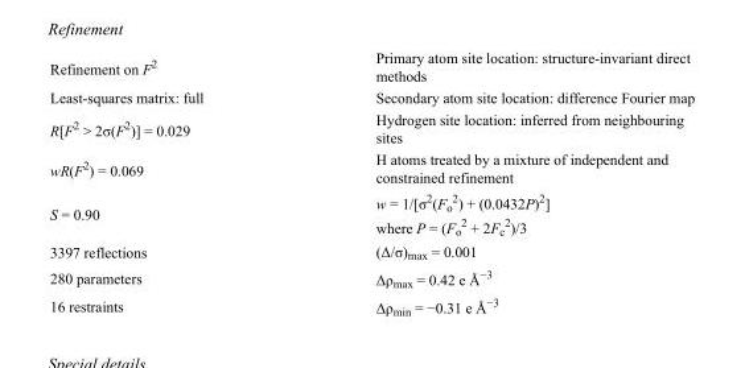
<table><tbody><tr><td>Refinement on F<sup>2</sup></td><td>Primary atom site location: structure-invariant direct methods</td></tr><tr><td>Least-squares matrix: full</td><td>Secondary atom site location: difference Fourier map</td></tr><tr><td>R[F<sup>2</sup> &gt; 2σ(F<sup>2</sup>)] = 0.029</td><td>Hydrogen site location: inferred from neighbouring sites</td></tr><tr><td>wR(F<sup>2</sup>) = 0.069</td><td>H atoms treated by a mixture of independent and constrained refinement</td></tr><tr><td>S = 0.90</td><td>w = 1/[σ<sup>2</sup>(F<sub>o</sub> <sup>2</sup>) + (0.0432P)<sup>2</sup>] where P = (F<sub>o</sub> <sup>2</sup> + 2F<sub>c</sub> <sup>2</sup>)/3</td></tr><tr><td>3397 reflections</td><td>(Δ/σ)<sub>max</sub> = 0.001</td></tr><tr><td>280 parameters</td><td>Δρ<sub>max</sub> = 0.42 e Å<sup>−3</sup></td></tr><tr><td>16 restraints</td><td>Δρ<sub>min</sub> = −0.31 e Å<sup>−3</sup></td></tr></tbody></table>